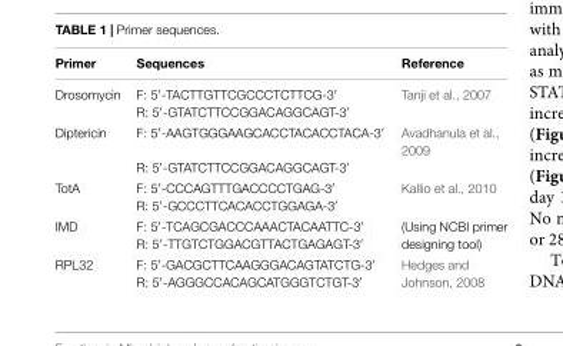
<table><thead><tr><td>Primer</td><td>Sequences</td><td>Reference</td></tr></thead><tbody><tr><td>Drosomycin</td><td>F: 5′-TACTTGTTCGCCCTCTTCG-3′ R: 5′-GTATCTTCCGGACAGGCAGT-3′</td><td>Tanji et al., 2007</td></tr><tr><td>Diptericin</td><td>F: 5′-AAGTGGGAAGCACCTACACCTACA-3′ R: 5′-GTATCTTCCGGACAGGCAGT-3′</td><td>Avadhanula et al., 2009</td></tr><tr><td>TotA</td><td>F: 5′-CCCAGTTTGACCCCTGAG-3′ R: 5′-GCCCTTCACACCTGGAGA-3′</td><td>Kallio et al., 2010</td></tr><tr><td>IMD</td><td>F: 5′-TCAGCGACCCAAACTACAATTC-3′ R: 5′-TTGTCTGGACGTTACTGAGAGT-3′</td><td>(Using NCBI primer designing tool)</td></tr><tr><td>RPL32</td><td>F: 5′-GACGCTTCAAGGGACAGTATCTG-3′ R: 5′-AGGGCCACAGCATGGGTCTGT-3′</td><td>Hedges and Johnson, 2008</td></tr></tbody></table>